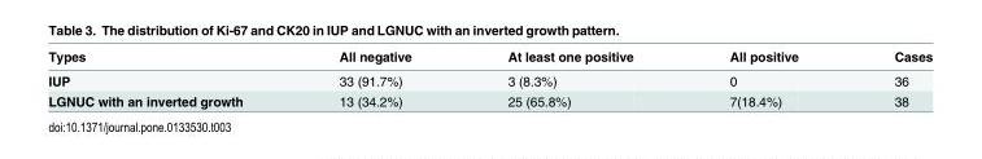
<table><thead><tr><td>Types</td><td>All negative</td><td>At least one positive</td><td>All positive</td><td>Cases</td></tr></thead><tbody><tr><td>IUP</td><td>33 (91.7%)</td><td>3 (8.3%)</td><td>0</td><td>36</td></tr><tr><td>LGNUC with an inverted growth</td><td>13 (34.2%)</td><td>25 (65.8%)</td><td>7(18.4%)</td><td>38</td></tr></tbody></table>